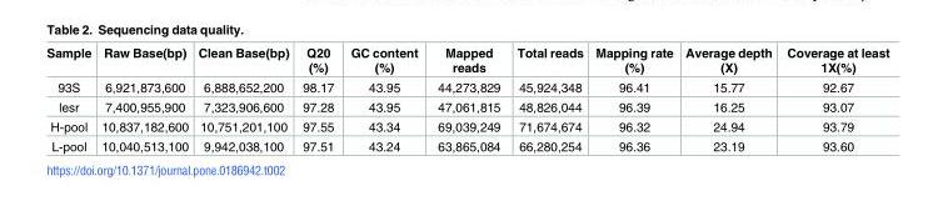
<table><thead><tr><td>Sample</td><td>Raw Base(bp)</td><td>Clean Base(bp)</td><td>Q20 (%)</td><td>GC content (%)</td><td>Mapped reads</td><td>Total reads</td><td>Mapping rate (%)</td><td>Average depth (X)</td><td>Coverage at least 1X(%)</td></tr></thead><tbody><tr><td>93S</td><td>6,921,873,600</td><td>6,888,652,200</td><td>98.17</td><td>43.95</td><td>44,273,829</td><td>45,924,348</td><td>96.41</td><td>15.77</td><td>92.67</td></tr><tr><td>lesr</td><td>7,400,955,900</td><td>7,323,906,600</td><td>97.28</td><td>43.95</td><td>47,061,815</td><td>48,826,044</td><td>96.39</td><td>16.25</td><td>93.07</td></tr><tr><td>H-pool</td><td>10,837,182,600</td><td>10,751,201,100</td><td>97.55</td><td>43.34</td><td>69,039,249</td><td>71,674,674</td><td>96.32</td><td>24.94</td><td>93.79</td></tr><tr><td>L-pool</td><td>10,040,513,100</td><td>9,942,038,100</td><td>97.51</td><td>43.24</td><td>63,865,084</td><td>66,280,254</td><td>96.36</td><td>23.19</td><td>93.60</td></tr></tbody></table>